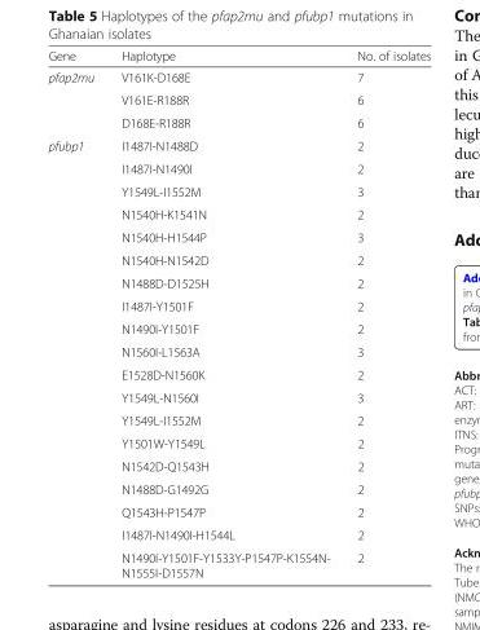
<table><thead><tr><td>Gene</td><td>Haplotype</td><td>No. of isolates</td></tr></thead><tbody><tr><td rowspan="3">pfap2mu</td><td>V161K-D168E</td><td>7</td></tr><tr><td>V161E-R188R</td><td>6</td></tr><tr><td>D168E-R188R</td><td>6</td></tr><tr><td rowspan="19">pfubp1</td><td>I1487I-N1488D</td><td>2</td></tr><tr><td>I1487I-N1490I</td><td>2</td></tr><tr><td>Y1549L-I1552M</td><td>3</td></tr><tr><td>N1540H-K1541N</td><td>2</td></tr><tr><td>N1540H-H1544P</td><td>3</td></tr><tr><td>N1540H-N1542D</td><td>2</td></tr><tr><td>N1488D-D1525H</td><td>2</td></tr><tr><td>I1487I-Y1501F</td><td>2</td></tr><tr><td>N1490I-Y1501F</td><td>2</td></tr><tr><td>N1560I-L1563A</td><td>3</td></tr><tr><td>E1528D-N1560K</td><td>2</td></tr><tr><td>Y1549L-N1560I</td><td>3</td></tr><tr><td>Y1549L-I1552M</td><td>2</td></tr><tr><td>Y1501W-Y1549L</td><td>2</td></tr><tr><td>N1542D-Q1543H</td><td>2</td></tr><tr><td>N1488D-G1492G</td><td>2</td></tr><tr><td>Q1543H-P1547P</td><td>2</td></tr><tr><td>I1487I-N1490I-H1544L</td><td>2</td></tr><tr><td>N1490I-Y1501F-Y1533Y-P1547P-K1554N- N1555I-D1557N</td><td>2</td></tr></tbody></table>